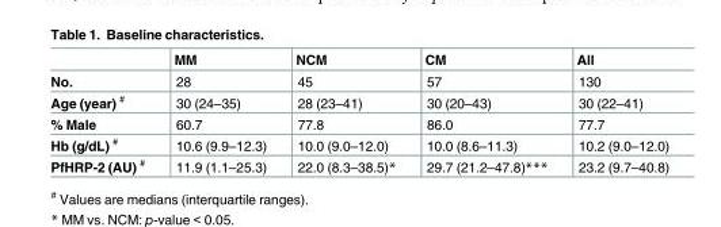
<table><thead><tr><td></td><td>MM</td><td>NCM</td><td>CM</td><td>All</td></tr></thead><tbody><tr><td>No.</td><td>28</td><td>45</td><td>57</td><td>130</td></tr><tr><td>Age (year) <sup>#</sup></td><td>30 (24–35)</td><td>28 (23–41)</td><td>30 (20–43)</td><td>30 (22–41)</td></tr><tr><td>% Male</td><td>60.7</td><td>77.8</td><td>86.0</td><td>77.7</td></tr><tr><td>Hb (g/dL) <sup>#</sup></td><td>10.6 (9.9–12.3)</td><td>10.0 (9.0–12.0)</td><td>10.0 (8.6–11.3)</td><td>10.2 (9.0–12.0)</td></tr><tr><td>PfHRP-2 (AU) <sup>#</sup></td><td>11.9 (1.1–25.3)</td><td>22.0 (8.3–38.5)*</td><td>29.7 (21.2–47.8)***</td><td>23.2 (9.7–40.8)</td></tr></tbody></table>